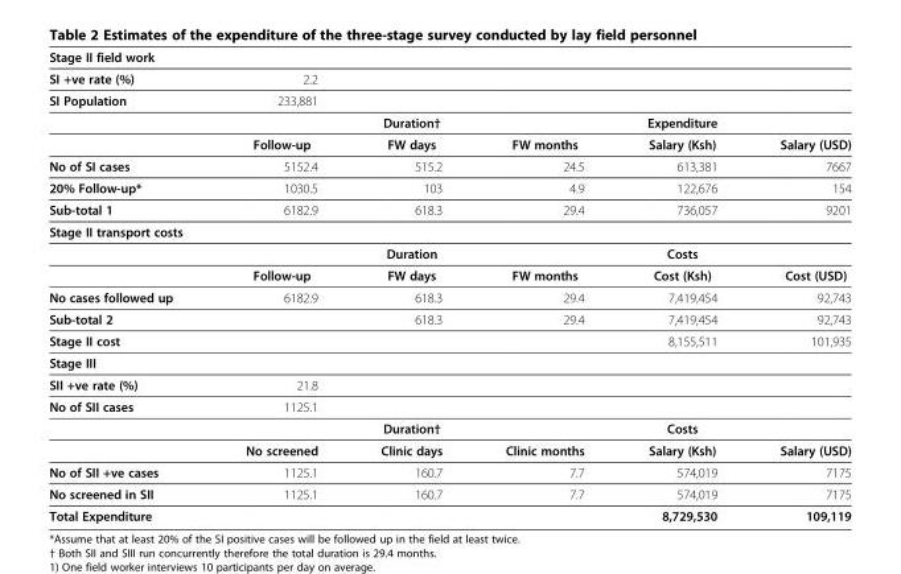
<table><thead><tr><td>Stage II field work</td><td></td><td></td><td></td><td></td><td></td></tr></thead><tbody><tr><td>SI +ve rate (%)</td><td>2.2</td><td></td><td></td><td></td><td></td></tr><tr><td rowspan="3">SI Population</td><td>233,881</td><td></td><td></td><td></td><td></td></tr><tr><td></td><td>Duration†</td><td></td><td>Expenditure</td><td></td></tr><tr><td>Follow-up</td><td>FW days</td><td>FW months</td><td>Salary (Ksh)</td><td>Salary (USD)</td></tr><tr><td>No of SI cases</td><td>5152.4</td><td>515.2</td><td>24.5</td><td>613,381</td><td>7667</td></tr><tr><td>20% Follow-up*</td><td>1030.5</td><td>103</td><td>4.9</td><td>122,676</td><td>154</td></tr><tr><td>Sub-total 1</td><td>6182.9</td><td>618.3</td><td>29.4</td><td>736,057</td><td>9201</td></tr><tr><td colspan="6">Stage II transport costs</td></tr><tr><td></td><td></td><td>Duration</td><td></td><td>Costs</td><td></td></tr><tr><td></td><td>Follow-up</td><td>FW days</td><td>FW months</td><td>Cost (Ksh)</td><td>Cost (USD)</td></tr><tr><td>No cases followed up</td><td>6182.9</td><td>618.3</td><td>29.4</td><td>7,419,454</td><td>92,743</td></tr><tr><td>Sub-total 2</td><td></td><td>618.3</td><td>29.4</td><td>7,419,454</td><td>92,743</td></tr><tr><td>Stage II cost</td><td></td><td></td><td></td><td>8,155,511</td><td>101,935</td></tr><tr><td colspan="6">Stage III</td></tr><tr><td>SII +ve rate (%)</td><td>21.8</td><td></td><td></td><td></td><td></td></tr><tr><td rowspan="3">No of SII cases</td><td>1125.1</td><td></td><td></td><td></td><td></td></tr><tr><td></td><td>Duration†</td><td></td><td>Costs</td><td></td></tr><tr><td>No screened</td><td>Clinic days</td><td>Clinic months</td><td>Salary (Ksh)</td><td>Salary (USD)</td></tr><tr><td>No of SII +ve cases</td><td>1125.1</td><td>160.7</td><td>7.7</td><td>574,019</td><td>7175</td></tr><tr><td>No screened in SII</td><td>1125.1</td><td>160.7</td><td>7.7</td><td>574,019</td><td>7175</td></tr><tr><td>Total Expenditure</td><td></td><td></td><td></td><td>8,729,530</td><td>109,119</td></tr></tbody></table>